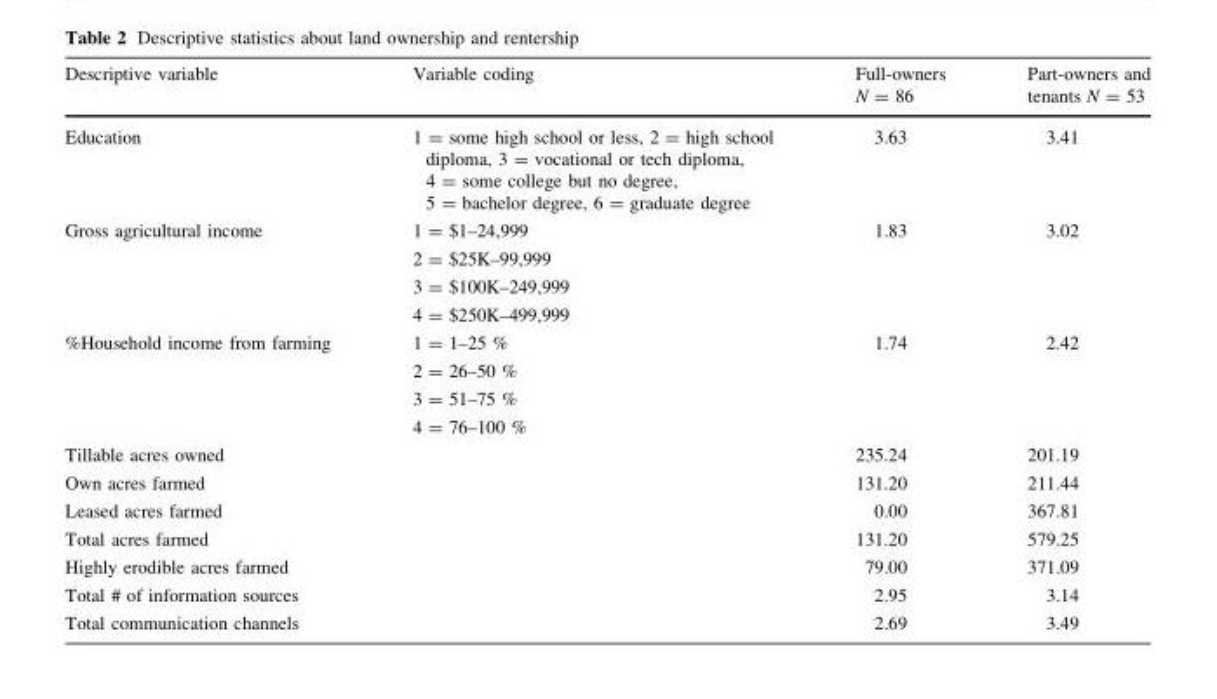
<table><thead><tr><td>Descriptive variable</td><td>Variable coding</td><td>Full-owners N = 86</td><td>Part-owners and tenants N = 53</td></tr></thead><tbody><tr><td>Education</td><td>1 = some high school or less, 2 = high school diploma, 3 = vocational or tech diploma, 4 = some college but no degree, 5 = bachelor degree, 6 = graduate degree</td><td>3.63</td><td>3.41</td></tr><tr><td>Gross agricultural income</td><td>1 = $1–24,999 2 = $25K–99,999 3 = $100K–249,999 4 = $250K–499,999</td><td>1.83</td><td>3.02</td></tr><tr><td>%Household income from farming</td><td>1 = 1–25 % 2 = 26–50 % 3 = 51–75 % 4 = 76–100 %</td><td>1.74</td><td>2.42</td></tr><tr><td>Tillable acres owned</td><td></td><td>235.24</td><td>201.19</td></tr><tr><td>Own acres farmed</td><td></td><td>131.20</td><td>211.44</td></tr><tr><td>Leased acres farmed</td><td></td><td>0.00</td><td>367.81</td></tr><tr><td>Total acres farmed</td><td></td><td>131.20</td><td>579.25</td></tr><tr><td>Highly erodible acres farmed</td><td></td><td>79.00</td><td>371.09</td></tr><tr><td>Total # of information sources</td><td></td><td>2.95</td><td>3.14</td></tr><tr><td>Total communication channels</td><td></td><td>2.69</td><td>3.49</td></tr></tbody></table>